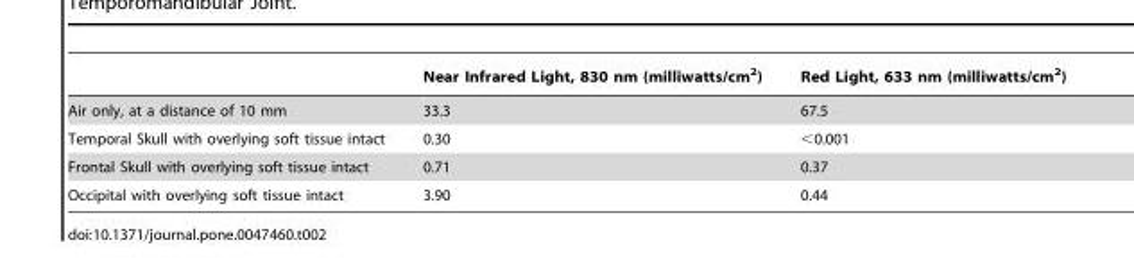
<table><thead><tr><td></td><td>Near Infrared Light, 830 nm (milliwatts/cm<sup>2</sup>)</td><td>Red Light, 633 nm (milliwatts/cm<sup>2</sup>)</td></tr></thead><tbody><tr><td>Air only, at a distance of 10 mm</td><td>33.3</td><td>67.5</td></tr><tr><td>Temporal Skull with overlying soft tissue intact</td><td>0.30</td><td>&lt;0.001</td></tr><tr><td>Frontal Skull with overlying soft tissue intact</td><td>0.71</td><td>0.37</td></tr><tr><td>Occipital with overlying soft tissue intact</td><td>3.90</td><td>0.44</td></tr></tbody></table>